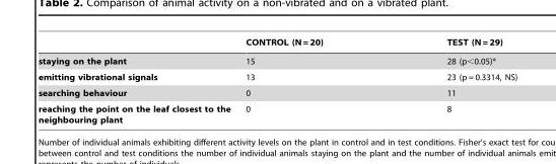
<table><thead><tr><td></td><td>CONTROL (N = 20)</td><td>TEST (N = 29)</td></tr></thead><tbody><tr><td>staying on the plant</td><td>15</td><td>28 (p&lt;0.05)*</td></tr><tr><td>emitting vibrational signals</td><td>13</td><td>23 (p = 0.3314, NS)</td></tr><tr><td>searching behaviour</td><td>0</td><td>11</td></tr><tr><td>reaching the point on the leaf closest to the neighbouring plant</td><td>0</td><td>8</td></tr></tbody></table>